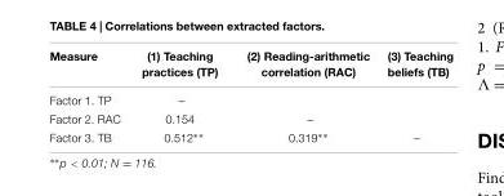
<table><thead><tr><td>Measure</td><td>(1) Teaching practices (TP)</td><td>(2) Reading-arithmetic correlation (RAC)</td><td>(3) Teaching beliefs (TB)</td></tr></thead><tbody><tr><td>Factor 1. TP</td><td>–</td><td></td><td></td></tr><tr><td>Factor 2. RAC</td><td>0.154</td><td>–</td><td></td></tr><tr><td>Factor 3. TB</td><td>0.512∗∗</td><td>0.319∗∗</td><td>–</td></tr></tbody></table>